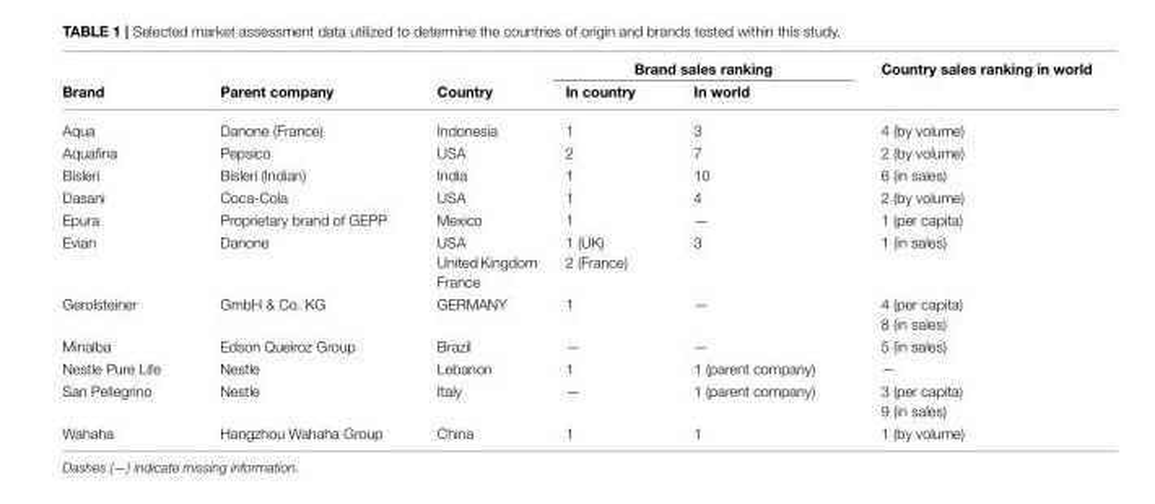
<table><thead><tr><td rowspan="2">Brand</td><td rowspan="2">Parent company</td><td rowspan="2">Country</td><td colspan="2">Brand sales ranking</td><td rowspan="2">Country sales ranking in world</td></tr><tr><td>In country</td><td>In world</td></tr></thead><tbody><tr><td>Aqua</td><td>Danone (France)</td><td>Indonesia</td><td>1</td><td>3</td><td>4 (by volume)</td></tr><tr><td>Aquafina</td><td>Pepsico</td><td>USA</td><td>2</td><td>7</td><td>2 (by volume)</td></tr><tr><td>Bisleri</td><td>Bisleri (Indian)</td><td>India</td><td>1</td><td>10</td><td>6 (in sales)</td></tr><tr><td>Dasani</td><td>Coca-Cola</td><td>USA</td><td>1</td><td>4</td><td>2 (by volume)</td></tr><tr><td>Epura</td><td>Proprietary brand of GEPP</td><td>Mexico</td><td>1</td><td>—</td><td>1 (per capita)</td></tr><tr><td>Evian</td><td>Danone</td><td>USA United Kingdom France</td><td>1 (UK) 2 (France)</td><td>3</td><td>1 (in sales)</td></tr><tr><td>Gerolsteiner</td><td>GmbH &amp; Co. KG</td><td>GERMANY</td><td>1</td><td>—</td><td>4 (per capita) 8 (in sales)</td></tr><tr><td>Minalba</td><td>Edson Queiroz Group</td><td>Brazil</td><td>—</td><td>—</td><td>5 (in sales)</td></tr><tr><td>Nestle Pure Life</td><td>Nestle</td><td>Lebanon</td><td>1</td><td>1 (parent company)</td><td>—</td></tr><tr><td>San Pellegrino</td><td>Nestle</td><td>Italy</td><td>—</td><td>1 (parent company)</td><td>3 (per capita) 9 (in sales)</td></tr><tr><td>Wahaha</td><td>Hangzhou Wahaha Group</td><td>China</td><td>1</td><td>1</td><td>1 (by volume)</td></tr></tbody></table>